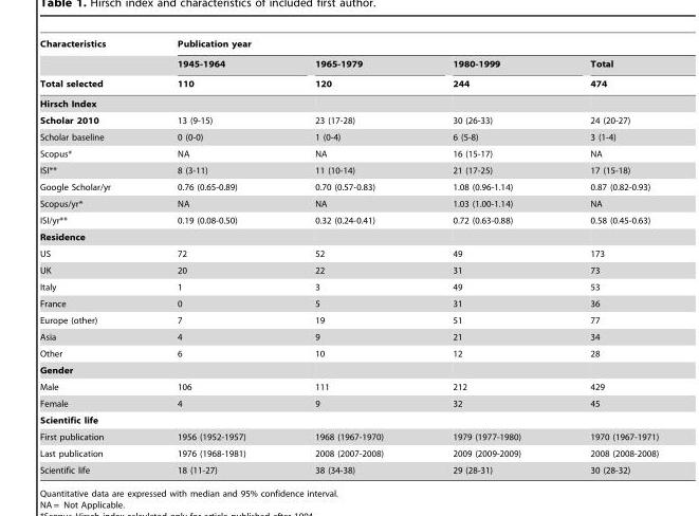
<table><thead><tr><td rowspan="3">Characteristics Total selected</td><td colspan="4">Publication year</td></tr><tr><td rowspan="2">1945-1964 110</td><td rowspan="2">1965-1979 120</td><td rowspan="2">1980-1999 244</td><td rowspan="2">Total 474</td></tr><tr></tr></thead><tbody><tr><td colspan="5">Hirsch Index</td></tr><tr><td>Scholar 2010</td><td>13 (9-15)</td><td>23 (17-28)</td><td>30 (26-33)</td><td>24 (20-27)</td></tr><tr><td>Scholar baseline</td><td>0 (0-0)</td><td>1 (0-4)</td><td>6 (5-8)</td><td>3 (1-4)</td></tr><tr><td>Scopus*</td><td>NA</td><td>NA</td><td>16 (15-17)</td><td>NA</td></tr><tr><td>ISI**</td><td>8 (3-11)</td><td>11 (10-14)</td><td>21 (17-25)</td><td>17 (15-18)</td></tr><tr><td>Google Scholar/yr</td><td>0.76 (0.65-0.89)</td><td>0.70 (0.57-0.83)</td><td>1.08 (0.96-1.14)</td><td>0.87 (0.82-0.93)</td></tr><tr><td>Scopus/yr*</td><td>NA</td><td>NA</td><td>1.03 (1.00-1.14)</td><td>NA</td></tr><tr><td>ISI/yr**</td><td>0.19 (0.08-0.50)</td><td>0.32 (0.24-0.41)</td><td>0.72 (0.63-0.88)</td><td>0.58 (0.45-0.63)</td></tr><tr><td colspan="5">Residence</td></tr><tr><td>US</td><td>72</td><td>52</td><td>49</td><td>173</td></tr><tr><td>UK</td><td>20</td><td>22</td><td>31</td><td>73</td></tr><tr><td>Italy</td><td>1</td><td>3</td><td>49</td><td>53</td></tr><tr><td>France</td><td>0</td><td>5</td><td>31</td><td>36</td></tr><tr><td>Europe (other)</td><td>7</td><td>19</td><td>51</td><td>77</td></tr><tr><td>Asia</td><td>4</td><td>9</td><td>21</td><td>34</td></tr><tr><td>Other</td><td>6</td><td>10</td><td>12</td><td>28</td></tr><tr><td colspan="5">Gender</td></tr><tr><td>Male</td><td>106</td><td>111</td><td>212</td><td>429</td></tr><tr><td>Female</td><td>4</td><td>9</td><td>32</td><td>45</td></tr><tr><td colspan="5">Scientific life</td></tr><tr><td>First publication</td><td>1956 (1952-1957)</td><td>1968 (1967-1970)</td><td>1979 (1977-1980)</td><td>1970 (1967-1971)</td></tr><tr><td>Last publication</td><td>1976 (1968-1981)</td><td>2008 (2007-2008)</td><td>2009 (2009-2009)</td><td>2008 (2008-2008)</td></tr><tr><td>Scientific life</td><td>18 (11-27)</td><td>38 (34-38)</td><td>29 (28-31)</td><td>30 (28-32)</td></tr></tbody></table>